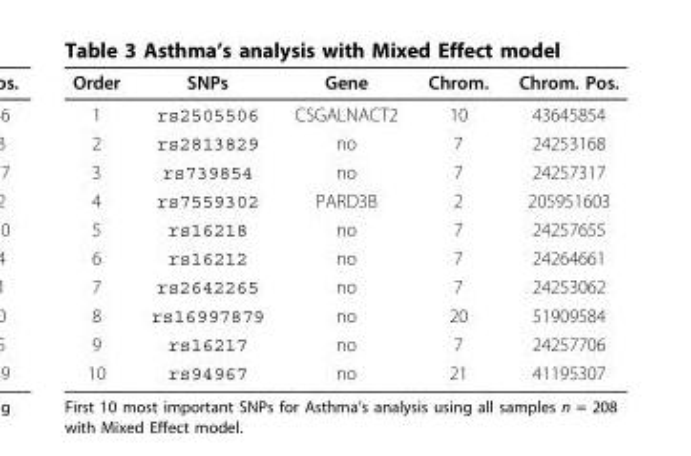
<table><thead><tr><td>Order</td><td>SNPs</td><td>Gene</td><td>Chrom.</td><td>Chrom. Pos.</td></tr></thead><tbody><tr><td>1</td><td>rs2505506</td><td>CSGALNACT2</td><td>10</td><td>43645854</td></tr><tr><td>2</td><td>rs2813829</td><td>no</td><td>7</td><td>24253168</td></tr><tr><td>3</td><td>rs739854</td><td>no</td><td>7</td><td>24257317</td></tr><tr><td>4</td><td>rs7559302</td><td>PARD3B</td><td>2</td><td>205951603</td></tr><tr><td>5</td><td>rs16218</td><td>no</td><td>7</td><td>24257655</td></tr><tr><td>6</td><td>rs16212</td><td>no</td><td>7</td><td>24264661</td></tr><tr><td>7</td><td>rs2642265</td><td>no</td><td>7</td><td>24253062</td></tr><tr><td>8</td><td>rs16997879</td><td>no</td><td>20</td><td>51909584</td></tr><tr><td>9</td><td>rs16217</td><td>no</td><td>7</td><td>24257706</td></tr><tr><td>10</td><td>rs94967</td><td>no</td><td>21</td><td>41195307</td></tr></tbody></table>